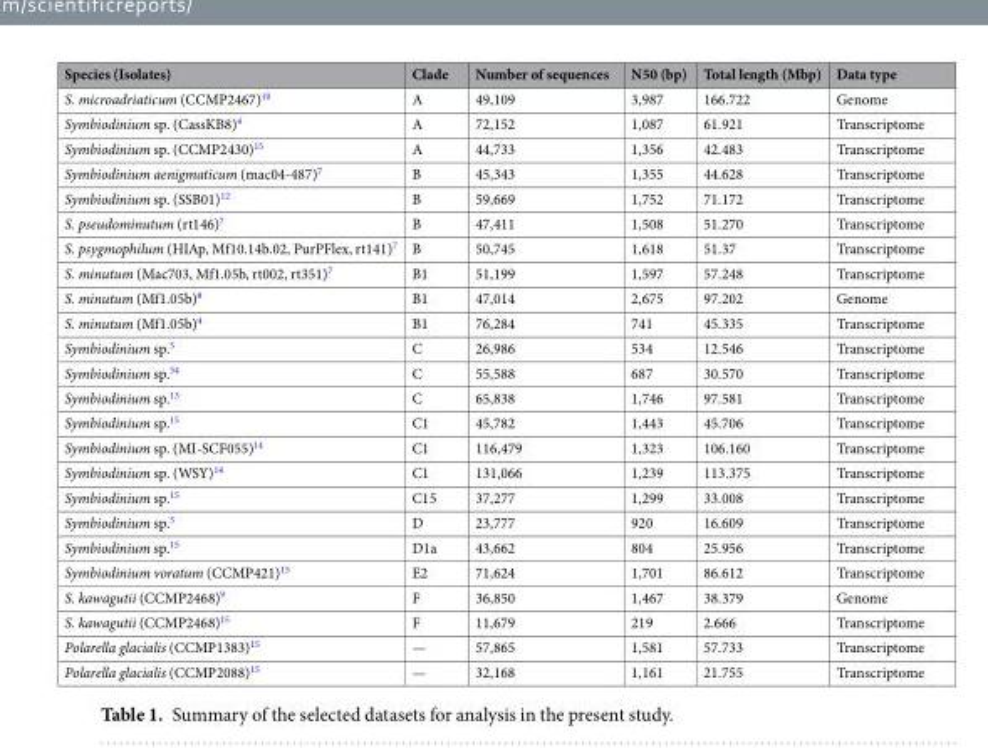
<table><thead><tr><td>Species (Isolates)</td><td>Clade</td><td>Number of sequences</td><td>N50 (bp)</td><td>Total length (Mbp)</td><td>Data type</td></tr></thead><tbody><tr><td>S. microadriaticum (CCMP2467)<sup>10</sup></td><td>A</td><td>49,109</td><td>3,987</td><td>166.722</td><td>Genome</td></tr><tr><td>Symbiodinium sp. (CassKB8)<sup>4</sup></td><td>A</td><td>72,152</td><td>1,087</td><td>61.921</td><td>Transcriptome</td></tr><tr><td>Symbiodinium sp. (CCMP2430)<sup>15</sup></td><td>A</td><td>44,733</td><td>1,356</td><td>42.483</td><td>Transcriptome</td></tr><tr><td>Symbiodinium aenigmaticum (mac04-487)<sup>7</sup></td><td>B</td><td>45,343</td><td>1,355</td><td>44.628</td><td>Transcriptome</td></tr><tr><td>Symbiodinium sp. (SSB01)<sup>12</sup></td><td>B</td><td>59,669</td><td>1,752</td><td>71.172</td><td>Transcriptome</td></tr><tr><td>S. pseudominutum (rt146)<sup>7</sup></td><td>B</td><td>47,411</td><td>1,508</td><td>51.270</td><td>Transcriptome</td></tr><tr><td>S. psygmophilum (HIAp, Mf10.14b.02, PurPFlex, rt141)<sup>7</sup></td><td>B</td><td>50,745</td><td>1,618</td><td>51.37</td><td>Transcriptome</td></tr><tr><td>S. minutum (Mac703, Mf1.05b, rt002, rt351)<sup>7</sup></td><td>B1</td><td>51,199</td><td>1,597</td><td>57.248</td><td>Transcriptome</td></tr><tr><td>S. minutum (Mf1.05b)<sup>8</sup></td><td>B1</td><td>47,014</td><td>2,675</td><td>97.202</td><td>Genome</td></tr><tr><td>S. minutum (Mf1.05b)<sup>4</sup></td><td>B1</td><td>76,284</td><td>741</td><td>45.335</td><td>Transcriptome</td></tr><tr><td>Symbiodinium sp.<sup>5</sup></td><td>C</td><td>26,986</td><td>534</td><td>12.546</td><td>Transcriptome</td></tr><tr><td>Symbiodinium sp.<sup>54</sup></td><td>C</td><td>55,588</td><td>687</td><td>30.570</td><td>Transcriptome</td></tr><tr><td>Symbiodinium sp.<sup>13</sup></td><td>C</td><td>65,838</td><td>1,746</td><td>97.581</td><td>Transcriptome</td></tr><tr><td>Symbiodinium sp.<sup>15</sup></td><td>C1</td><td>45,782</td><td>1,443</td><td>45.706</td><td>Transcriptome</td></tr><tr><td>Symbiodinium sp. (MI-SCF055)<sup>14</sup></td><td>C1</td><td>116,479</td><td>1,323</td><td>106.160</td><td>Transcriptome</td></tr><tr><td>Symbiodinium sp. (WSY)<sup>14</sup></td><td>C1</td><td>131,066</td><td>1,239</td><td>113.375</td><td>Transcriptome</td></tr><tr><td>Symbiodinium sp.<sup>15</sup></td><td>C15</td><td>37,277</td><td>1,299</td><td>33.008</td><td>Transcriptome</td></tr><tr><td>Symbiodinium sp.<sup>5</sup></td><td>D</td><td>23,777</td><td>920</td><td>16.609</td><td>Transcriptome</td></tr><tr><td>Symbiodinium sp.<sup>15</sup></td><td>D1a</td><td>43,662</td><td>804</td><td>25.956</td><td>Transcriptome</td></tr><tr><td>Symbiodinium voratum (CCMP421)<sup>15</sup></td><td>E2</td><td>71,624</td><td>1,701</td><td>86.612</td><td>Transcriptome</td></tr><tr><td>S. kawagutii (CCMP2468)<sup>9</sup></td><td>F</td><td>36,850</td><td>1,467</td><td>38.379</td><td>Genome</td></tr><tr><td>S. kawagutii (CCMP2468)<sup>15</sup></td><td>F</td><td>11,679</td><td>219</td><td>2.666</td><td>Transcriptome</td></tr><tr><td>Polarella glacialis (CCMP1383)<sup>15</sup></td><td>—</td><td>57,865</td><td>1,581</td><td>57.733</td><td>Transcriptome</td></tr><tr><td>Polarella glacialis (CCMP2088)<sup>15</sup></td><td>—</td><td>32,168</td><td>1,161</td><td>21.755</td><td>Transcriptome</td></tr></tbody></table>